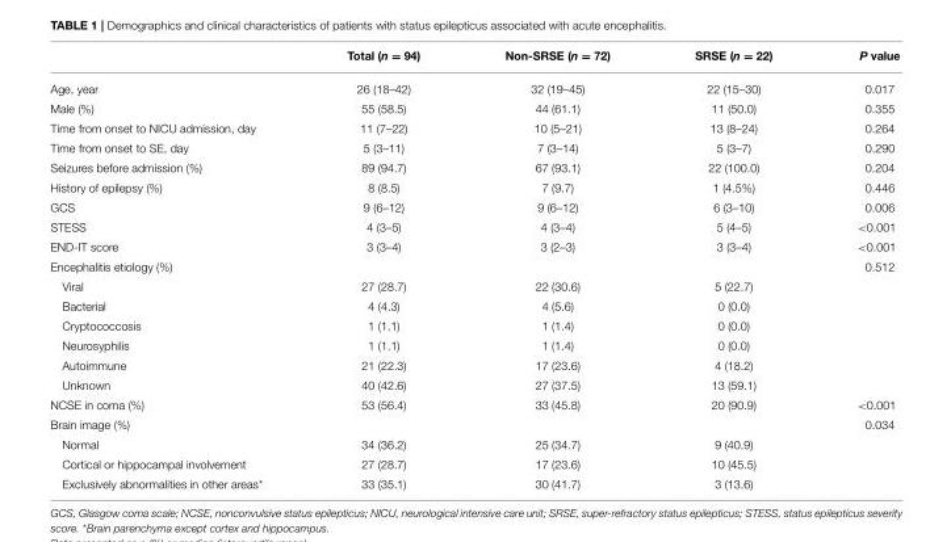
<table><thead><tr><td></td><td>Total (n = 94)</td><td>Non-SRSE (n = 72)</td><td>SRSE (n = 22)</td><td>P value</td></tr></thead><tbody><tr><td>Age, year</td><td>26 (18–42)</td><td>32 (19–45)</td><td>22 (15–30)</td><td>0.017</td></tr><tr><td>Male (%)</td><td>55 (58.5)</td><td>44 (61.1)</td><td>11 (50.0)</td><td>0.355</td></tr><tr><td>Time from onset to NICU admission, day</td><td>11 (7–22)</td><td>10 (5–21)</td><td>13 (8–24)</td><td>0.264</td></tr><tr><td>Time from onset to SE, day</td><td>5 (3–11)</td><td>7 (3–14)</td><td>5 (3–7)</td><td>0.290</td></tr><tr><td>Seizures before admission (%)</td><td>89 (94.7)</td><td>67 (93.1)</td><td>22 (100.0)</td><td>0.204</td></tr><tr><td>History of epilepsy (%)</td><td>8 (8.5)</td><td>7 (9.7)</td><td>1 (4.5%)</td><td>0.446</td></tr><tr><td>GCS</td><td>9 (6–12)</td><td>9 (6–12)</td><td>6 (3–10)</td><td>0.006</td></tr><tr><td>STESS</td><td>4 (3–5)</td><td>4 (3–4)</td><td>5 (4–5)</td><td>&lt;0.001</td></tr><tr><td>END-IT score</td><td>3 (3–4)</td><td>3 (2–3)</td><td>3 (3–4)</td><td>&lt;0.001</td></tr><tr><td>Encephalitis etiology (%)</td><td></td><td></td><td></td><td>0.512</td></tr><tr><td>Viral</td><td>27 (28.7)</td><td>22 (30.6)</td><td>5 (22.7)</td><td></td></tr><tr><td>Bacterial</td><td>4 (4.3)</td><td>4 (5.6)</td><td>0 (0.0)</td><td></td></tr><tr><td>Cryptococcosis</td><td>1 (1.1)</td><td>1 (1.4)</td><td>0 (0.0)</td><td></td></tr><tr><td>Neurosyphilis</td><td>1 (1.1)</td><td>1 (1.4)</td><td>0 (0.0)</td><td></td></tr><tr><td>Autoimmune</td><td>21 (22.3)</td><td>17 (23.6)</td><td>4 (18.2)</td><td></td></tr><tr><td>Unknown</td><td>40 (42.6)</td><td>27 (37.5)</td><td>13 (59.1)</td><td></td></tr><tr><td>NCSE in coma (%)</td><td>53 (56.4)</td><td>33 (45.8)</td><td>20 (90.9)</td><td>&lt;0.001</td></tr><tr><td>Brain image (%)</td><td></td><td></td><td></td><td>0.034</td></tr><tr><td>Normal</td><td>34 (36.2)</td><td>25 (34.7)</td><td>9 (40.9)</td><td></td></tr><tr><td>Cortical or hippocampal involvement</td><td>27 (28.7)</td><td>17 (23.6)</td><td>10 (45.5)</td><td></td></tr><tr><td>Exclusively abnormalities in other areas*</td><td>33 (35.1)</td><td>30 (41.7)</td><td>3 (13.6)</td><td></td></tr></tbody></table>